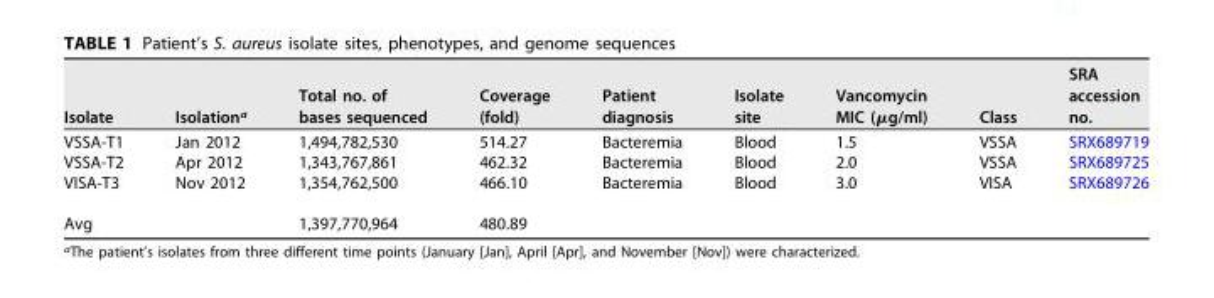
<table><thead><tr><td>Isolate</td><td>Isolation<sup>a</sup></td><td>Total no. of bases sequenced</td><td>Coverage (fold)</td><td>Patient diagnosis</td><td>Isolate site</td><td>Vancomycin MIC (µg/ml)</td><td>Class</td><td>SRA accession no.</td></tr></thead><tbody><tr><td>VSSA-T1</td><td>Jan 2012</td><td>1,494,782,530</td><td>514.27</td><td>Bacteremia</td><td>Blood</td><td>1.5</td><td>VSSA</td><td>SRX689719</td></tr><tr><td>VSSA-T2</td><td>Apr 2012</td><td>1,343,767,861</td><td>462.32</td><td>Bacteremia</td><td>Blood</td><td>2.0</td><td>VSSA</td><td>SRX689725</td></tr><tr><td>VISA-T3</td><td>Nov 2012</td><td>1,354,762,500</td><td>466.10</td><td>Bacteremia</td><td>Blood</td><td>3.0</td><td>VISA</td><td>SRX689726</td></tr><tr><td>Avg</td><td></td><td>1,397,770,964</td><td>480.89</td><td></td><td></td><td></td><td></td><td></td></tr></tbody></table>